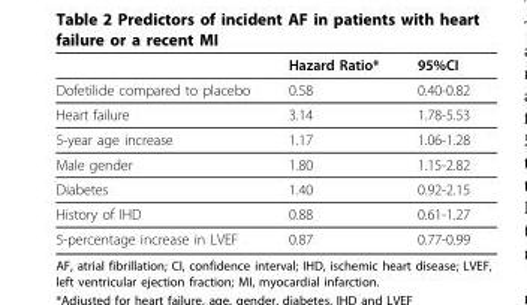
<table><thead><tr><td></td><td>Hazard Ratio*</td><td>95%CI</td></tr></thead><tbody><tr><td>Dofetilide compared to placebo</td><td>0.58</td><td>0.40-0.82</td></tr><tr><td>Heart failure</td><td>3.14</td><td>1.78-5.53</td></tr><tr><td>5-year age increase</td><td>1.17</td><td>1.06-1.28</td></tr><tr><td>Male gender</td><td>1.80</td><td>1.15-2.82</td></tr><tr><td>Diabetes</td><td>1.40</td><td>0.92-2.15</td></tr><tr><td>History of IHD</td><td>0.88</td><td>0.61-1.27</td></tr><tr><td>5-percentage increase in LVEF</td><td>0.87</td><td>0.77-0.99</td></tr></tbody></table>